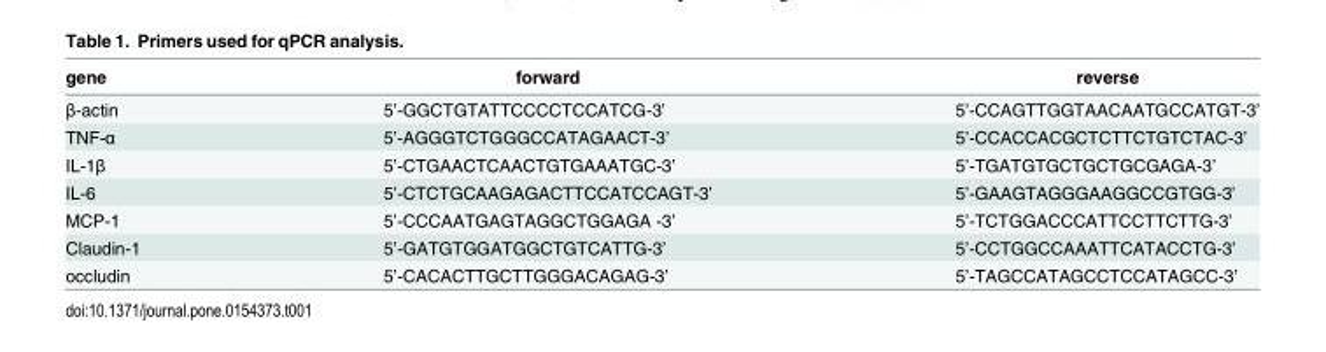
<table><thead><tr><td>gene</td><td>forward</td><td>reverse</td></tr></thead><tbody><tr><td>β-actin</td><td>5’-GGCTGTATTCCCCTCCATCG-3’</td><td>5’-CCAGTTGGTAACAATGCCATGT-3’</td></tr><tr><td>TNF-α</td><td>5’-AGGGTCTGGGCCATAGAACT-3’</td><td>5’-CCACCACGCTCTTCTGTCTAC-3’</td></tr><tr><td>IL-1β</td><td>5’-CTGAACTCAACTGTGAAATGC-3’</td><td>5’-TGATGTGCTGCTGCGAGA-3’</td></tr><tr><td>IL-6</td><td>5’-CTCTGCAAGAGACTTCCATCCAGT-3’</td><td>5’-GAAGTAGGGAAGGCCGTGG-3’</td></tr><tr><td>MCP-1</td><td>5’-CCCAATGAGTAGGCTGGAGA -3’</td><td>5’-TCTGGACCCATTCCTTCTTG-3’</td></tr><tr><td>Claudin-1</td><td>5’-GATGTGGATGGCTGTCATTG-3’</td><td>5’-CCTGGCCAAATTCATACCTG-3’</td></tr><tr><td>occludin</td><td>5’-CACACTTGCTTGGGACAGAG-3’</td><td>5’-TAGCCATAGCCTCCATAGCC-3’</td></tr></tbody></table>